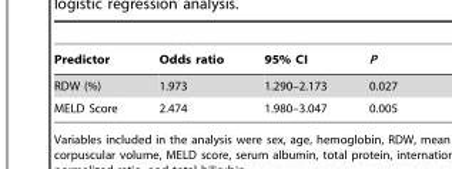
<table><thead><tr><td>Predictor</td><td>Odds ratio</td><td>95% CI</td><td>P</td></tr></thead><tbody><tr><td>RDW (%)</td><td>1.973</td><td>1.290–2.173</td><td>0.027</td></tr><tr><td>MELD Score</td><td>2.474</td><td>1.980–3.047</td><td>0.005</td></tr></tbody></table>